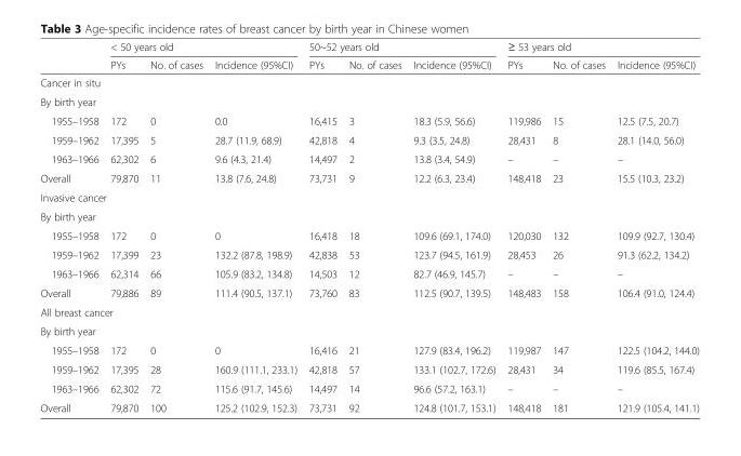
<table><thead><tr><td rowspan="2"></td><td colspan="3">&lt; 50 years old</td><td colspan="3">50~52 years old</td><td colspan="3">≥ 53 years old</td></tr><tr><td>PYs</td><td>No. of cases</td><td>Incidence (95%CI)</td><td>PYs</td><td>No. of cases</td><td>Incidence (95%CI)</td><td>PYs</td><td>No. of cases</td><td>Incidence (95%CI)</td></tr></thead><tbody><tr><td colspan="10">Cancer in situ</td></tr><tr><td colspan="10">By birth year</td></tr><tr><td>1955–1958</td><td>172</td><td>0</td><td>0.0</td><td>16,415</td><td>3</td><td>18.3 (5.9, 56.6)</td><td>119,986</td><td>15</td><td>12.5 (7.5, 20.7)</td></tr><tr><td>1959–1962</td><td>17,395</td><td>5</td><td>28.7 (11.9, 68.9)</td><td>42,818</td><td>4</td><td>9.3 (3.5, 24.8)</td><td>28,431</td><td>8</td><td>28.1 (14.0, 56.0)</td></tr><tr><td>1963–1966</td><td>62,302</td><td>6</td><td>9.6 (4.3, 21.4)</td><td>14,497</td><td>2</td><td>13.8 (3.4, 54.9)</td><td>–</td><td>–</td><td>–</td></tr><tr><td>Overall</td><td>79,870</td><td>11</td><td>13.8 (7.6, 24.8)</td><td>73,731</td><td>9</td><td>12.2 (6.3, 23.4)</td><td>148,418</td><td>23</td><td>15.5 (10.3, 23.2)</td></tr><tr><td colspan="10">Invasive cancer</td></tr><tr><td colspan="10">By birth year</td></tr><tr><td>1955–1958</td><td>172</td><td>0</td><td>0</td><td>16,418</td><td>18</td><td>109.6 (69.1, 174.0)</td><td>120,030</td><td>132</td><td>109.9 (92.7, 130.4)</td></tr><tr><td>1959–1962</td><td>17,399</td><td>23</td><td>132.2 (87.8, 198.9)</td><td>42,838</td><td>53</td><td>123.7 (94.5, 161.9)</td><td>28,453</td><td>26</td><td>91.3 (62.2, 134.2)</td></tr><tr><td>1963–1966</td><td>62,314</td><td>66</td><td>105.9 (83.2, 134.8)</td><td>14,503</td><td>12</td><td>82.7 (46.9, 145.7)</td><td>–</td><td>–</td><td>–</td></tr><tr><td>Overall</td><td>79,886</td><td>89</td><td>111.4 (90.5, 137.1)</td><td>73,760</td><td>83</td><td>112.5 (90.7, 139.5)</td><td>148,483</td><td>158</td><td>106.4 (91.0, 124.4)</td></tr><tr><td colspan="10">All breast cancer</td></tr><tr><td colspan="10">By birth year</td></tr><tr><td>1955–1958</td><td>172</td><td>0</td><td>0</td><td>16,416</td><td>21</td><td>127.9 (83.4, 196.2)</td><td>119,987</td><td>147</td><td>122.5 (104.2, 144.0)</td></tr><tr><td>1959–1962</td><td>17,395</td><td>28</td><td>160.9 (111.1, 233.1)</td><td>42,818</td><td>57</td><td>133.1 (102.7, 172.6)</td><td>28,431</td><td>34</td><td>119.6 (85.5, 167.4)</td></tr><tr><td>1963–1966</td><td>62,302</td><td>72</td><td>115.6 (91.7, 145.6)</td><td>14,497</td><td>14</td><td>96.6 (57.2, 163.1)</td><td>–</td><td>–</td><td>–</td></tr><tr><td>Overall</td><td>79,870</td><td>100</td><td>125.2 (102.9, 152.3)</td><td>73,731</td><td>92</td><td>124.8 (101.7, 153.1)</td><td>148,418</td><td>181</td><td>121.9 (105.4, 141.1)</td></tr></tbody></table>